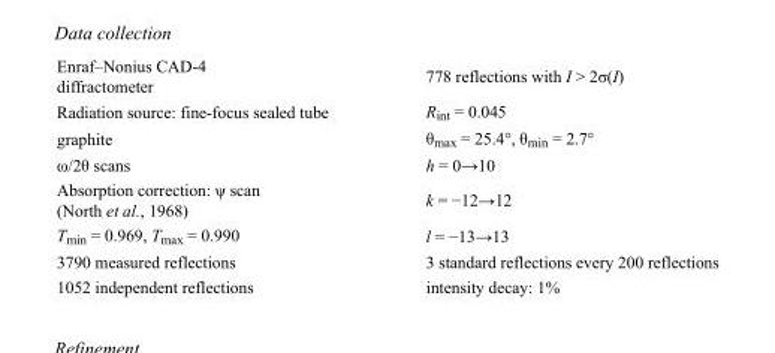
<table><tbody><tr><td>Enraf–Nonius CAD-4 diffractometer</td><td>778 reflections with I &gt; 2σ(I)</td></tr><tr><td>Radiation source: fine-focus sealed tube</td><td>R<sub>int</sub> = 0.045</td></tr><tr><td>graphite</td><td>θ<sub>max</sub> = 25.4°, θ<sub>min</sub> = 2.7°</td></tr><tr><td>ω/2θ scans</td><td>h = 0→10</td></tr><tr><td>Absorption correction: ψ scan (North et al., 1968)</td><td>k = −12→12</td></tr><tr><td>T<sub>min</sub> = 0.969, T<sub>max</sub> = 0.990</td><td>l = −13→13</td></tr><tr><td>3790 measured reflections</td><td>3 standard reflections every 200 reflections</td></tr><tr><td>1052 independent reflections</td><td>intensity decay: 1%</td></tr></tbody></table>